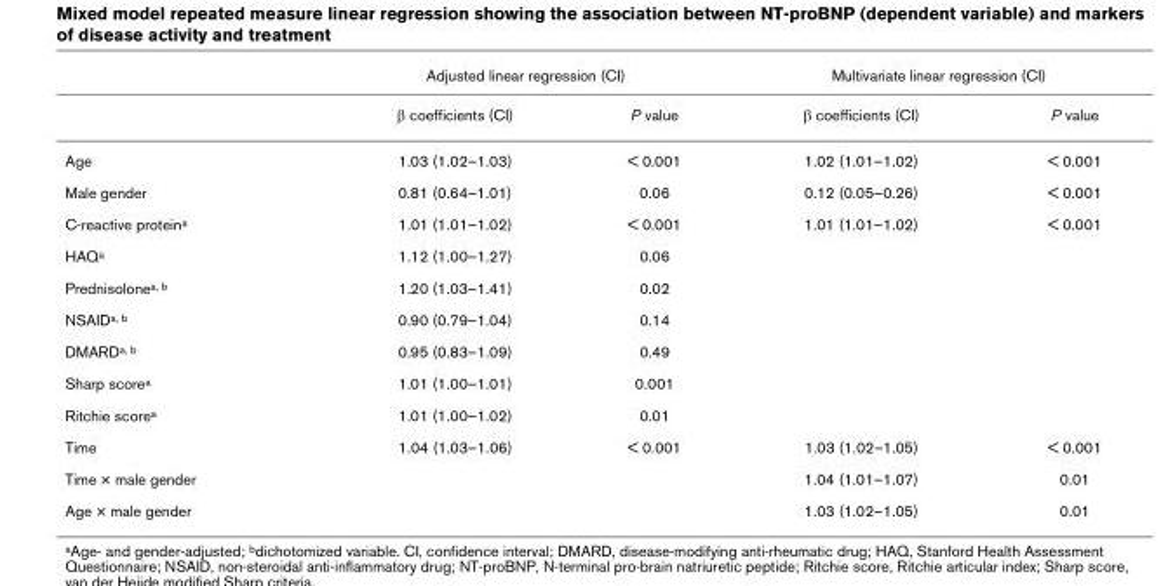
<table><thead><tr><td rowspan="2"></td><td colspan="2">Adjusted linear regression (CI)</td><td colspan="2">Multivariate linear regression (CI)</td></tr><tr><td>β coefficients (CI)</td><td>P value</td><td>β coefficients (CI)</td><td>P value</td></tr></thead><tbody><tr><td>Age</td><td>1.03 (1.02–1.03)</td><td>&lt; 0.001</td><td>1.02 (1.01–1.02)</td><td>&lt; 0.001</td></tr><tr><td>Male gender</td><td>0.81 (0.64–1.01)</td><td>0.06</td><td>0.12 (0.05–0.26)</td><td>&lt; 0.001</td></tr><tr><td>C-reactive protein<sup>a</sup></td><td>1.01 (1.01–1.02)</td><td>&lt; 0.001</td><td>1.01 (1.01–1.02)</td><td>&lt; 0.001</td></tr><tr><td>HAQ<sup>a</sup></td><td>1.12 (1.00–1.27)</td><td>0.06</td><td></td><td></td></tr><tr><td>Prednisolone<sup>a, b</sup></td><td>1.20 (1.03–1.41)</td><td>0.02</td><td></td><td></td></tr><tr><td>NSAID<sup>a, b</sup></td><td>0.90 (0.79–1.04)</td><td>0.14</td><td></td><td></td></tr><tr><td>DMARD<sup>a, b</sup></td><td>0.95 (0.83–1.09)</td><td>0.49</td><td></td><td></td></tr><tr><td>Sharp score<sup>a</sup></td><td>1.01 (1.00–1.01)</td><td>0.001</td><td></td><td></td></tr><tr><td>Ritchie score<sup>a</sup></td><td>1.01 (1.00–1.02)</td><td>0.01</td><td></td><td></td></tr><tr><td>Time</td><td>1.04 (1.03–1.06)</td><td>&lt; 0.001</td><td>1.03 (1.02–1.05)</td><td>&lt; 0.001</td></tr><tr><td>Time × male gender</td><td></td><td></td><td>1.04 (1.01–1.07)</td><td>0.01</td></tr><tr><td>Age × male gender</td><td></td><td></td><td>1.03 (1.02–1.05)</td><td>0.01</td></tr></tbody></table>